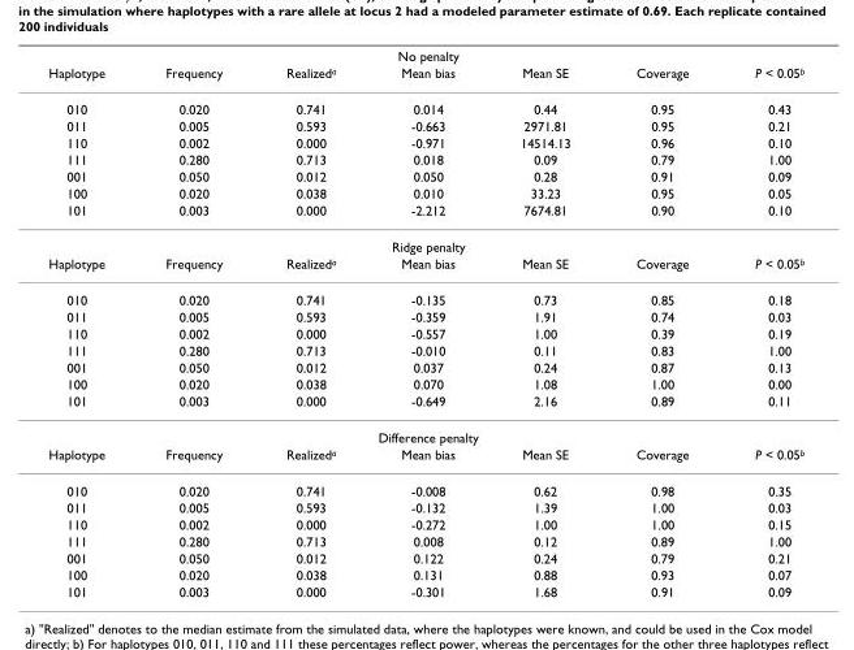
<table><thead><tr><td colspan="7">No penalty</td></tr><tr><td>Haplotype</td><td>Frequency</td><td>Realized<sup>a</sup></td><td>Mean bias</td><td>Mean SE</td><td>Coverage</td><td>P &lt; 0.05<sup>b</sup></td></tr></thead><tbody><tr><td>010</td><td>0.020</td><td>0.741</td><td>0.014</td><td>0.44</td><td>0.95</td><td>0.43</td></tr><tr><td>011</td><td>0.005</td><td>0.593</td><td>-0.663</td><td>2971.81</td><td>0.95</td><td>0.21</td></tr><tr><td>110</td><td>0.002</td><td>0.000</td><td>-0.971</td><td>14514.13</td><td>0.96</td><td>0.10</td></tr><tr><td>111</td><td>0.280</td><td>0.713</td><td>0.018</td><td>0.09</td><td>0.79</td><td>1.00</td></tr><tr><td>001</td><td>0.050</td><td>0.012</td><td>0.050</td><td>0.28</td><td>0.91</td><td>0.09</td></tr><tr><td>100</td><td>0.020</td><td>0.038</td><td>0.010</td><td>33.23</td><td>0.95</td><td>0.05</td></tr><tr><td>101</td><td>0.003</td><td>0.000</td><td>-2.212</td><td>7674.81</td><td>0.90</td><td>0.10</td></tr><tr><td colspan="7">Ridge penalty</td></tr><tr><td>Haplotype</td><td>Frequency</td><td>Realized<sup>a</sup></td><td>Mean bias</td><td>Mean SE</td><td>Coverage</td><td>P &lt; 0.05<sup>b</sup></td></tr><tr><td>010</td><td>0.020</td><td>0.741</td><td>-0.135</td><td>0.73</td><td>0.85</td><td>0.18</td></tr><tr><td>011</td><td>0.005</td><td>0.593</td><td>-0.359</td><td>1.91</td><td>0.74</td><td>0.03</td></tr><tr><td>110</td><td>0.002</td><td>0.000</td><td>-0.557</td><td>1.00</td><td>0.39</td><td>0.19</td></tr><tr><td>111</td><td>0.280</td><td>0.713</td><td>-0.010</td><td>0.11</td><td>0.83</td><td>1.00</td></tr><tr><td>001</td><td>0.050</td><td>0.012</td><td>0.037</td><td>0.24</td><td>0.87</td><td>0.13</td></tr><tr><td>100</td><td>0.020</td><td>0.038</td><td>0.070</td><td>1.08</td><td>1.00</td><td>0.00</td></tr><tr><td>101</td><td>0.003</td><td>0.000</td><td>-0.649</td><td>2.16</td><td>0.89</td><td>0.11</td></tr><tr><td colspan="7">Difference penalty</td></tr><tr><td>Haplotype</td><td>Frequency</td><td>Realized<sup>a</sup></td><td>Mean bias</td><td>Mean SE</td><td>Coverage</td><td>P &lt; 0.05<sup>b</sup></td></tr><tr><td>010</td><td>0.020</td><td>0.741</td><td>-0.008</td><td>0.62</td><td>0.98</td><td>0.35</td></tr><tr><td>011</td><td>0.005</td><td>0.593</td><td>-0.132</td><td>1.39</td><td>1.00</td><td>0.03</td></tr><tr><td>110</td><td>0.002</td><td>0.000</td><td>-0.272</td><td>1.00</td><td>1.00</td><td>0.15</td></tr><tr><td>111</td><td>0.280</td><td>0.713</td><td>0.008</td><td>0.12</td><td>0.89</td><td>1.00</td></tr><tr><td>001</td><td>0.050</td><td>0.012</td><td>0.122</td><td>0.24</td><td>0.79</td><td>0.21</td></tr><tr><td>100</td><td>0.020</td><td>0.038</td><td>0.131</td><td>0.88</td><td>0.93</td><td>0.07</td></tr><tr><td>101</td><td>0.003</td><td>0.000</td><td>-0.301</td><td>1.68</td><td>0.91</td><td>0.09</td></tr></tbody></table>